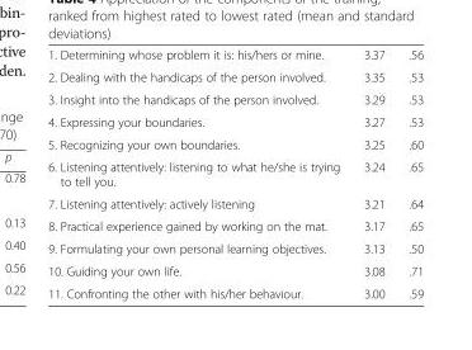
<table><tbody><tr><td>1. Determining whose problem it is: his/hers or mine.</td><td>3.37</td><td>.56</td></tr><tr><td>2. Dealing with the handicaps of the person involved.</td><td>3.35</td><td>.53</td></tr><tr><td>3. Insight into the handicaps of the person involved.</td><td>3.29</td><td>.53</td></tr><tr><td>4. Expressing your boundaries.</td><td>3.27</td><td>.53</td></tr><tr><td>5. Recognizing your own boundaries.</td><td>3.25</td><td>.60</td></tr><tr><td>6. Listening attentively: listening to what he/she is trying to tell you.</td><td>3.24</td><td>.65</td></tr><tr><td>7. Listening attentively: actively listening</td><td>3.21</td><td>.64</td></tr><tr><td>8. Practical experience gained by working on the mat.</td><td>3.17</td><td>.65</td></tr><tr><td>9. Formulating your own personal learning objectives.</td><td>3.13</td><td>.50</td></tr><tr><td>10. Guiding your own life.</td><td>3.08</td><td>.71</td></tr><tr><td>11. Confronting the other with his/her behaviour.</td><td>3.00</td><td>.59</td></tr></tbody></table>